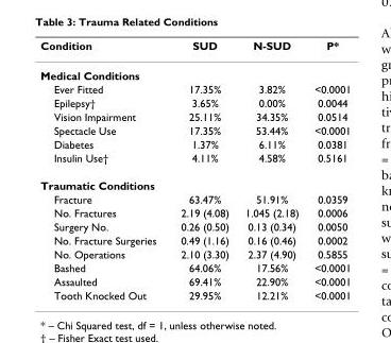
<table><thead><tr><td>Condition</td><td>SUD</td><td>N-SUD</td><td>P*</td></tr></thead><tbody><tr><td colspan="4">Medical Conditions</td></tr><tr><td>Ever Fitted</td><td>17.35%</td><td>3.82%</td><td>&lt;0.0001</td></tr><tr><td>Epilepsy†</td><td>3.65%</td><td>0.00%</td><td>0.0044</td></tr><tr><td>Vision Impairment</td><td>25.11%</td><td>34.35%</td><td>0.0514</td></tr><tr><td>Spectacle Use</td><td>17.35%</td><td>53.44%</td><td>&lt;0.0001</td></tr><tr><td>Diabetes</td><td>1.37%</td><td>6.11%</td><td>0.0381</td></tr><tr><td>Insulin Use†</td><td>4.11%</td><td>4.58%</td><td>0.5161</td></tr><tr><td colspan="4">Traumatic Conditions</td></tr><tr><td>Fracture</td><td>63.47%</td><td>51.91%</td><td>0.0359</td></tr><tr><td>No. Fractures</td><td>2.19 (4.08)</td><td>1.045 (2.18)</td><td>0.0006</td></tr><tr><td>Surgery No.</td><td>0.26 (0.50)</td><td>0.13 (0.34)</td><td>0.0050</td></tr><tr><td>No. Fracture Surgeries</td><td>0.49 (1.16)</td><td>0.16 (0.46)</td><td>0.0002</td></tr><tr><td>No. Operations</td><td>2.10 (3.30)</td><td>2.37 (4.90)</td><td>0.5855</td></tr><tr><td>Bashed</td><td>64.06%</td><td>17.56%</td><td>&lt;0.0001</td></tr><tr><td>Assaulted</td><td>69.41%</td><td>22.90%</td><td>&lt;0.0001</td></tr><tr><td>Tooth Knocked Out</td><td>29.95%</td><td>12.21%</td><td>&lt;0.0001</td></tr></tbody></table>